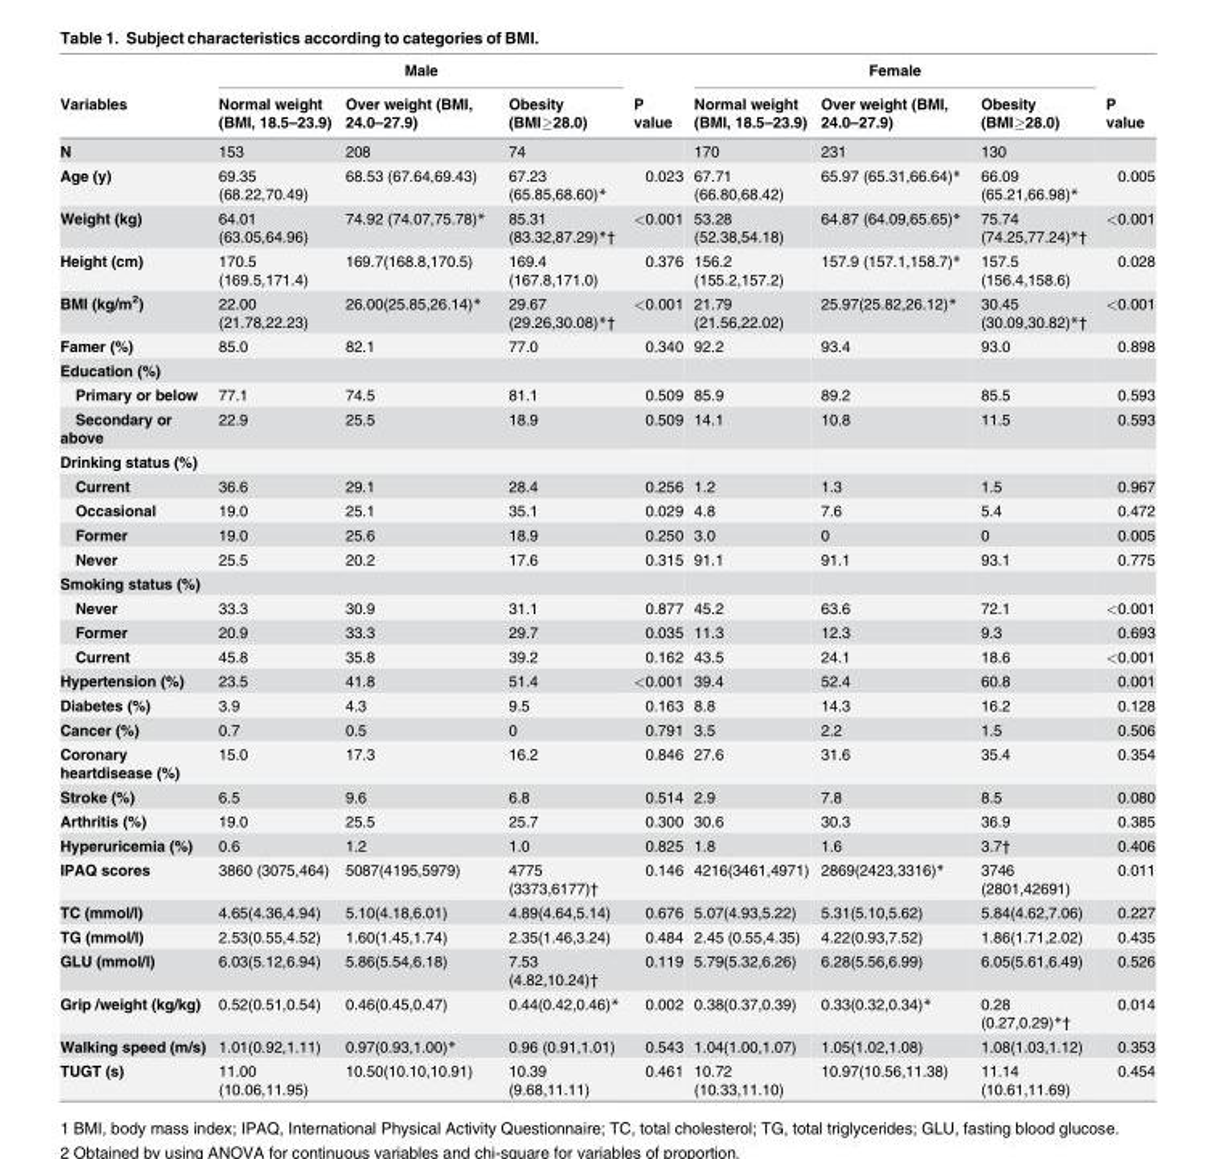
<table><thead><tr><td rowspan="2">Variables</td><td colspan="3">Male</td><td rowspan="2">P value</td><td colspan="3">Female</td><td rowspan="2">P value</td></tr><tr><td>Normal weight (BMI, 18.5–23.9)</td><td>Over weight (BMI, 24.0–27.9)</td><td>Obesity (BMI≥28.0)</td><td>Normal weight (BMI, 18.5–23.9)</td><td>Over weight (BMI, 24.0–27.9)</td><td>Obesity (BMI≥28.0)</td></tr></thead><tbody><tr><td>N</td><td>153</td><td>208</td><td>74</td><td></td><td>170</td><td>231</td><td>130</td><td></td></tr><tr><td>Age (y)</td><td>69.35 (68.22,70.49)</td><td>68.53 (67.64,69.43)</td><td>67.23 (65.85,68.60)*</td><td>0.023</td><td>67.71 (66.80,68.42)</td><td>65.97 (65.31,66.64)*</td><td>66.09 (65.21,66.98)*</td><td>0.005</td></tr><tr><td>Weight (kg)</td><td>64.01 (63.05,64.96)</td><td>74.92 (74.07,75.78)*</td><td>85.31 (83.32,87.29)*†</td><td>&lt;0.001</td><td>53.28 (52.38,54.18)</td><td>64.87 (64.09,65.65)*</td><td>75.74 (74.25,77.24)*†</td><td>&lt;0.001</td></tr><tr><td>Height (cm)</td><td>170.5 (169.5,171.4)</td><td>169.7(168.8,170.5)</td><td>169.4 (167.8,171.0)</td><td>0.376</td><td>156.2 (155.2,157.2)</td><td>157.9 (157.1,158.7)*</td><td>157.5 (156.4,158.6)</td><td>0.028</td></tr><tr><td>BMI (kg/m<sup>2</sup>)</td><td>22.00 (21.78,22.23)</td><td>26.00(25.85,26.14)*</td><td>29.67 (29.26,30.08)*†</td><td>&lt;0.001</td><td>21.79 (21.56,22.02)</td><td>25.97(25.82,26.12)*</td><td>30.45 (30.09,30.82)*†</td><td>&lt;0.001</td></tr><tr><td>Famer (%)</td><td>85.0</td><td>82.1</td><td>77.0</td><td>0.340</td><td>92.2</td><td>93.4</td><td>93.0</td><td>0.898</td></tr><tr><td colspan="9">Education (%)</td></tr><tr><td>Primary or below</td><td>77.1</td><td>74.5</td><td>81.1</td><td>0.509</td><td>85.9</td><td>89.2</td><td>85.5</td><td>0.593</td></tr><tr><td>Secondary or above</td><td>22.9</td><td>25.5</td><td>18.9</td><td>0.509</td><td>14.1</td><td>10.8</td><td>11.5</td><td>0.593</td></tr><tr><td colspan="9">Drinking status (%)</td></tr><tr><td>Current</td><td>36.6</td><td>29.1</td><td>28.4</td><td>0.256</td><td>1.2</td><td>1.3</td><td>1.5</td><td>0.967</td></tr><tr><td>Occasional</td><td>19.0</td><td>25.1</td><td>35.1</td><td>0.029</td><td>4.8</td><td>7.6</td><td>5.4</td><td>0.472</td></tr><tr><td>Former</td><td>19.0</td><td>25.6</td><td>18.9</td><td>0.250</td><td>3.0</td><td>0</td><td>0</td><td>0.005</td></tr><tr><td>Never</td><td>25.5</td><td>20.2</td><td>17.6</td><td>0.315</td><td>91.1</td><td>91.1</td><td>93.1</td><td>0.775</td></tr><tr><td colspan="9">Smoking status (%)</td></tr><tr><td>Never</td><td>33.3</td><td>30.9</td><td>31.1</td><td>0.877</td><td>45.2</td><td>63.6</td><td>72.1</td><td>&lt;0.001</td></tr><tr><td>Former</td><td>20.9</td><td>33.3</td><td>29.7</td><td>0.035</td><td>11.3</td><td>12.3</td><td>9.3</td><td>0.693</td></tr><tr><td>Current</td><td>45.8</td><td>35.8</td><td>39.2</td><td>0.162</td><td>43.5</td><td>24.1</td><td>18.6</td><td>&lt;0.001</td></tr><tr><td>Hypertension (%)</td><td>23.5</td><td>41.8</td><td>51.4</td><td>&lt;0.001</td><td>39.4</td><td>52.4</td><td>60.8</td><td>0.001</td></tr><tr><td>Diabetes (%)</td><td>3.9</td><td>4.3</td><td>9.5</td><td>0.163</td><td>8.8</td><td>14.3</td><td>16.2</td><td>0.128</td></tr><tr><td>Cancer (%)</td><td>0.7</td><td>0.5</td><td>0</td><td>0.791</td><td>3.5</td><td>2.2</td><td>1.5</td><td>0.506</td></tr><tr><td>Coronary heartdisease (%)</td><td>15.0</td><td>17.3</td><td>16.2</td><td>0.846</td><td>27.6</td><td>31.6</td><td>35.4</td><td>0.354</td></tr><tr><td>Stroke (%)</td><td>6.5</td><td>9.6</td><td>6.8</td><td>0.514</td><td>2.9</td><td>7.8</td><td>8.5</td><td>0.080</td></tr><tr><td>Arthritis (%)</td><td>19.0</td><td>25.5</td><td>25.7</td><td>0.300</td><td>30.6</td><td>30.3</td><td>36.9</td><td>0.385</td></tr><tr><td>Hyperuricemia (%)</td><td>0.6</td><td>1.2</td><td>1.0</td><td>0.825</td><td>1.8</td><td>1.6</td><td>3.7†</td><td>0.406</td></tr><tr><td>IPAQ scores</td><td>3860 (3075,464)</td><td>5087(4195,5979)</td><td>4775 (3373,6177)†</td><td>0.146</td><td>4216(3461,4971)</td><td>2869(2423,3316)*</td><td>3746 (2801,42691)</td><td>0.011</td></tr><tr><td>TC (mmol/l)</td><td>4.65(4.36,4.94)</td><td>5.10(4.18,6.01)</td><td>4.89(4.64,5.14)</td><td>0.676</td><td>5.07(4.93,5.22)</td><td>5.31(5.10,5.62)</td><td>5.84(4.62,7.06)</td><td>0.227</td></tr><tr><td>TG (mmol/l)</td><td>2.53(0.55,4.52)</td><td>1.60(1.45,1.74)</td><td>2.35(1.46,3.24)</td><td>0.484</td><td>2.45 (0.55,4.35)</td><td>4.22(0.93,7.52)</td><td>1.86(1.71,2.02)</td><td>0.435</td></tr><tr><td>GLU (mmol/l)</td><td>6.03(5.12,6.94)</td><td>5.86(5.54,6.18)</td><td>7.53 (4.82,10.24)†</td><td>0.119</td><td>5.79(5.32,6.26)</td><td>6.28(5.56,6.99)</td><td>6.05(5.61,6.49)</td><td>0.526</td></tr><tr><td>Grip /weight (kg/kg)</td><td>0.52(0.51,0.54)</td><td>0.46(0.45,0.47)</td><td>0.44(0.42,0.46)*</td><td>0.002</td><td>0.38(0.37,0.39)</td><td>0.33(0.32,0.34)*</td><td>0.28 (0.27,0.29)*†</td><td>0.014</td></tr><tr><td>Walking speed (m/s)</td><td>1.01(0.92,1.11)</td><td>0.97(0.93,1.00)*</td><td>0.96 (0.91,1.01)</td><td>0.543</td><td>1.04(1.00,1.07)</td><td>1.05(1.02,1.08)</td><td>1.08(1.03,1.12)</td><td>0.353</td></tr><tr><td>TUGT (s)</td><td>11.00 (10.06,11.95)</td><td>10.50(10.10,10.91)</td><td>10.39 (9.68,11.11)</td><td>0.461</td><td>10.72 (10.33,11.10)</td><td>10.97(10.56,11.38)</td><td>11.14 (10.61,11.69)</td><td>0.454</td></tr></tbody></table>